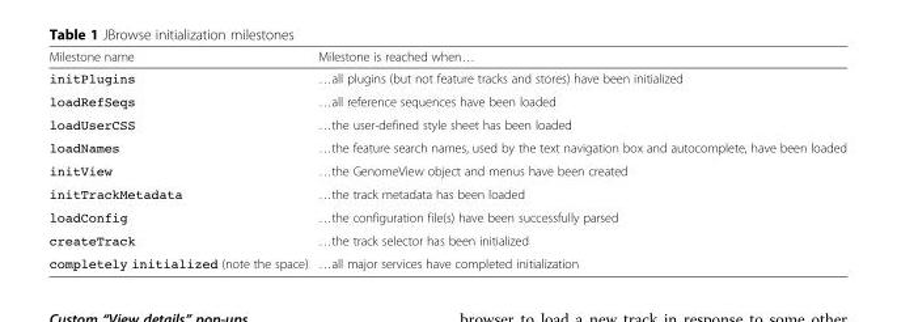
<table><thead><tr><td>Milestone name</td><td>Milestone is reached when…</td></tr></thead><tbody><tr><td>initPlugins</td><td>…all plugins (but not feature tracks and stores) have been initialized</td></tr><tr><td>loadRefSeqs</td><td>…all reference sequences have been loaded</td></tr><tr><td>loadUserCSS</td><td>…the user-defined style sheet has been loaded</td></tr><tr><td>loadNames</td><td>…the feature search names, used by the text navigation box and autocomplete, have been loaded</td></tr><tr><td>initView</td><td>…the GenomeView object and menus have been created</td></tr><tr><td>initTrackMetadata</td><td>…the track metadata has been loaded</td></tr><tr><td>loadConfig</td><td>…the configuration file(s) have been successfully parsed</td></tr><tr><td>createTrack</td><td>…the track selector has been initialized</td></tr><tr><td>completely initialized (note the space)</td><td>…all major services have completed initialization</td></tr></tbody></table>